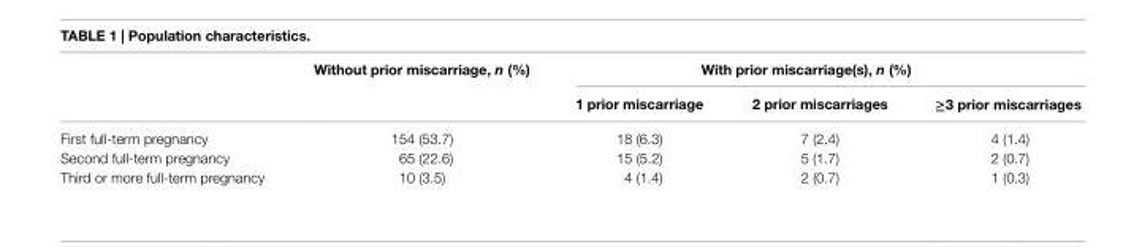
<table><thead><tr><td rowspan="2"></td><td rowspan="2">Without prior miscarriage, n (%)</td><td colspan="3">With prior miscarriage(s), n (%)</td></tr><tr><td>1 prior miscarriage</td><td>2 prior miscarriages</td><td>≥3 prior miscarriages</td></tr></thead><tbody><tr><td>First full-term pregnancy</td><td>154 (53.7)</td><td>18 (6.3)</td><td>7 (2.4)</td><td>4 (1.4)</td></tr><tr><td>Second full-term pregnancy</td><td>65 (22.6)</td><td>15 (5.2)</td><td>5 (1.7)</td><td>2 (0.7)</td></tr><tr><td>Third or more full-term pregnancy</td><td>10 (3.5)</td><td>4 (1.4)</td><td>2 (0.7)</td><td>1 (0.3)</td></tr></tbody></table>